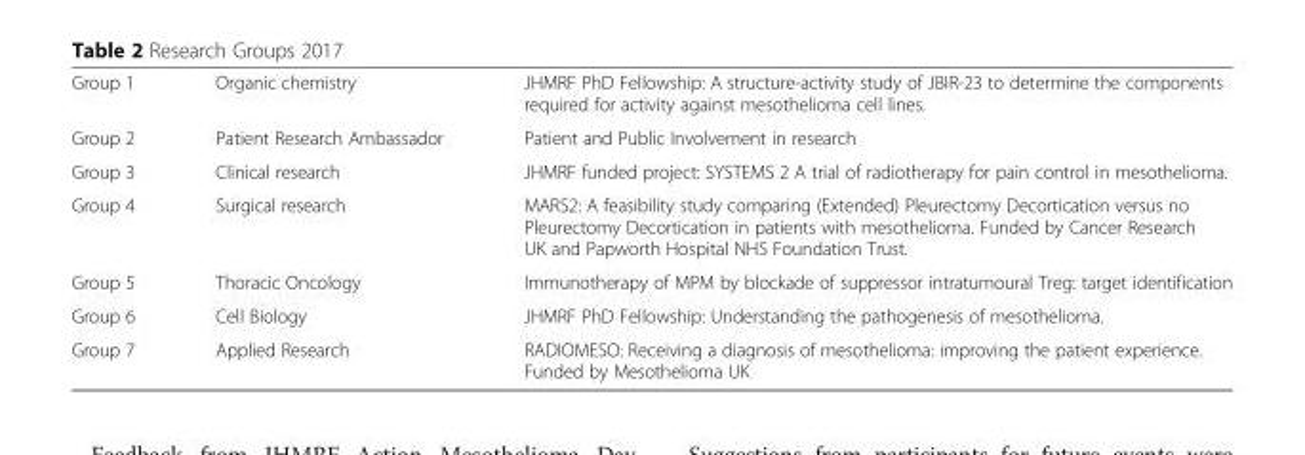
<table><tbody><tr><td>Group 1</td><td>Organic chemistry</td><td>JHMRF PhD Fellowship: A structure-activity study of JBIR-23 to determine the components required for activity against mesothelioma cell lines.</td></tr><tr><td>Group 2</td><td>Patient Research Ambassador</td><td>Patient and Public Involvement in research</td></tr><tr><td>Group 3</td><td>Clinical research</td><td>JHMRF funded project: SYSTEMS 2 A trial of radiotherapy for pain control in mesothelioma.</td></tr><tr><td>Group 4</td><td>Surgical research</td><td>MARS2: A feasibility study comparing (Extended) Pleurectomy Decortication versus no Pleurectomy Decortication in patients with mesothelioma. Funded by Cancer Research UK and Papworth Hospital NHS Foundation Trust.</td></tr><tr><td>Group 5</td><td>Thoracic Oncology</td><td>Immunotherapy of MPM by blockade of suppressor intratumoural Treg: target identification</td></tr><tr><td>Group 6</td><td>Cell Biology</td><td>JHMRF PhD Fellowship: Understanding the pathogenesis of mesothelioma.</td></tr><tr><td>Group 7</td><td>Applied Research</td><td>RADIOMESO: Receiving a diagnosis of mesothelioma: improving the patient experience. Funded by Mesothelioma UK</td></tr></tbody></table>